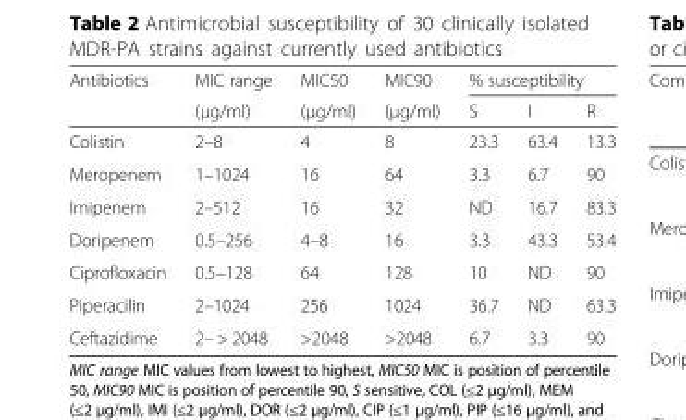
<table><thead><tr><td rowspan="2">Antibiotics</td><td rowspan="2">MIC range (μg/ml)</td><td rowspan="2">MIC50 (μg/ml)</td><td rowspan="2">MIC90 (μg/ml)</td><td colspan="3">% susceptibility</td></tr><tr><td>S</td><td>I</td><td>R</td></tr></thead><tbody><tr><td>Colistin</td><td>2–8</td><td>4</td><td>8</td><td>23.3</td><td>63.4</td><td>13.3</td></tr><tr><td>Meropenem</td><td>1–1024</td><td>16</td><td>64</td><td>3.3</td><td>6.7</td><td>90</td></tr><tr><td>Imipenem</td><td>2–512</td><td>16</td><td>32</td><td>ND</td><td>16.7</td><td>83.3</td></tr><tr><td>Doripenem</td><td>0.5–256</td><td>4–8</td><td>16</td><td>3.3</td><td>43.3</td><td>53.4</td></tr><tr><td>Ciprofloxacin</td><td>0.5–128</td><td>64</td><td>128</td><td>10</td><td>ND</td><td>90</td></tr><tr><td>Piperacilin</td><td>2–1024</td><td>256</td><td>1024</td><td>36.7</td><td>ND</td><td>63.3</td></tr><tr><td>Ceftazidime</td><td>2– &gt; 2048</td><td>&gt;2048</td><td>&gt;2048</td><td>6.7</td><td>3.3</td><td>90</td></tr></tbody></table>